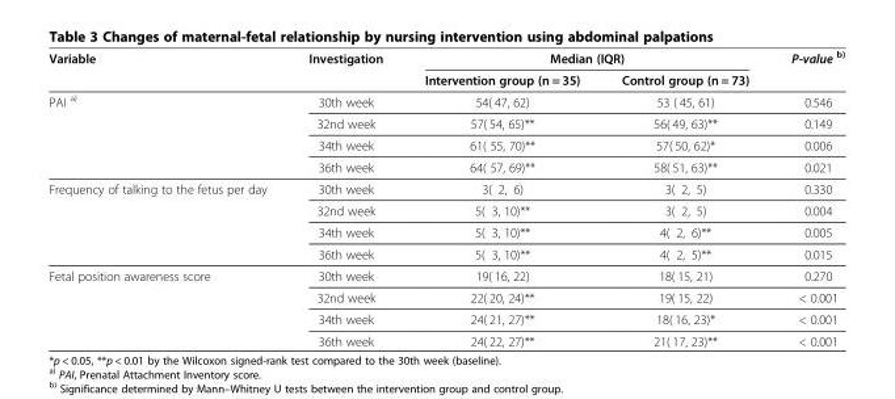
<table><thead><tr><td rowspan="2">Variable</td><td rowspan="2">Investigation</td><td colspan="2">Median (IQR)</td><td rowspan="2">P-value <sup>b)</sup></td></tr><tr><td>Intervention group (n = 35)</td><td>Control group (n = 73)</td></tr></thead><tbody><tr><td rowspan="4">PAI <sup>a)</sup></td><td>30th week</td><td>54( 47, 62)</td><td>53 ( 45, 61)</td><td>0.546</td></tr><tr><td>32nd week</td><td>57( 54, 65)**</td><td>56( 49, 63)**</td><td>0.149</td></tr><tr><td>34th week</td><td>61( 55, 70)**</td><td>57( 50, 62)*</td><td>0.006</td></tr><tr><td>36th week</td><td>64( 57, 69)**</td><td>58( 51, 63)**</td><td>0.021</td></tr><tr><td rowspan="4">Frequency of talking to the fetus per day</td><td>30th week</td><td>3( 2, 6)</td><td>3( 2, 5)</td><td>0.330</td></tr><tr><td>32nd week</td><td>5( 3, 10)**</td><td>3( 2, 5)</td><td>0.004</td></tr><tr><td>34th week</td><td>5( 3, 10)**</td><td>4( 2, 6)**</td><td>0.005</td></tr><tr><td>36th week</td><td>5( 3, 10)**</td><td>4( 2, 5)**</td><td>0.015</td></tr><tr><td rowspan="4">Fetal position awareness score</td><td>30th week</td><td>19( 16, 22)</td><td>18( 15, 21)</td><td>0.270</td></tr><tr><td>32nd week</td><td>22( 20, 24)**</td><td>19( 15, 22)</td><td>&lt; 0.001</td></tr><tr><td>34th week</td><td>24( 21, 27)**</td><td>18( 16, 23)*</td><td>&lt; 0.001</td></tr><tr><td>36th week</td><td>24( 22, 27)**</td><td>21( 17, 23)**</td><td>&lt; 0.001</td></tr></tbody></table>